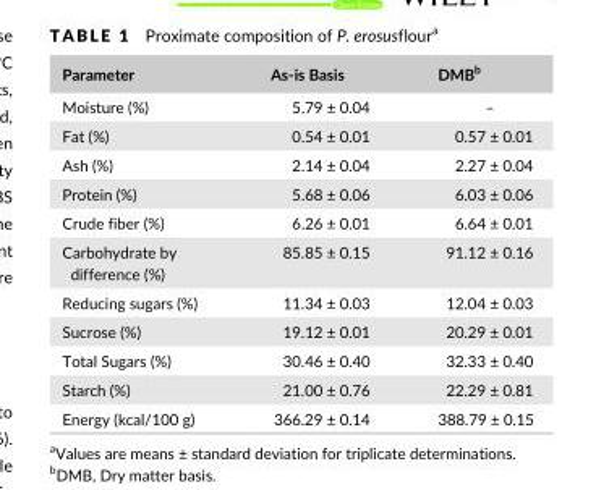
<table><thead><tr><td>Parameter</td><td>As- is Basis</td><td>DMB<sup>b</sup></td></tr></thead><tbody><tr><td>Moisture (%)</td><td>5.79 ± 0.04</td><td>–</td></tr><tr><td>Fat (%)</td><td>0.54 ± 0.01</td><td>0.57 ± 0.01</td></tr><tr><td>Ash (%)</td><td>2.14 ± 0.04</td><td>2.27 ± 0.04</td></tr><tr><td>Protein (%)</td><td>5.68 ± 0.06</td><td>6.03 ± 0.06</td></tr><tr><td>Crude fiber (%)</td><td>6.26 ± 0.01</td><td>6.64 ± 0.01</td></tr><tr><td>Carbohydrate by difference (%)</td><td>85.85 ± 0.15</td><td>91.12 ± 0.16</td></tr><tr><td>Reducing sugars (%)</td><td>11.34 ± 0.03</td><td>12.04 ± 0.03</td></tr><tr><td>Sucrose (%)</td><td>19.12 ± 0.01</td><td>20.29 ± 0.01</td></tr><tr><td>Total Sugars (%)</td><td>30.46 ± 0.40</td><td>32.33 ± 0.40</td></tr><tr><td>Starch (%)</td><td>21.00 ± 0.76</td><td>22.29 ± 0.81</td></tr><tr><td>Energy (kcal/100 g)</td><td>366.29 ± 0.14</td><td>388.79 ± 0.15</td></tr></tbody></table>